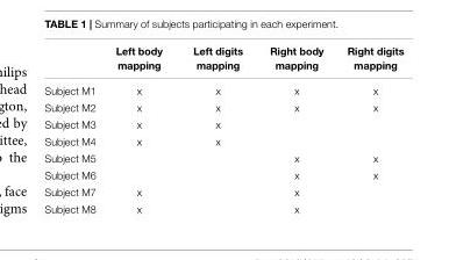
<table><thead><tr><td></td><td>Left body mapping</td><td>Left digits mapping</td><td>Right body mapping</td><td>Right digits mapping</td></tr></thead><tbody><tr><td>Subject M1</td><td>x</td><td>x</td><td>x</td><td>x</td></tr><tr><td>Subject M2</td><td>x</td><td>x</td><td>x</td><td>x</td></tr><tr><td>Subject M3</td><td>x</td><td>x</td><td></td><td></td></tr><tr><td>Subject M4</td><td>x</td><td>x</td><td></td><td></td></tr><tr><td>Subject M5</td><td></td><td></td><td>x</td><td>x</td></tr><tr><td>Subject M6</td><td></td><td></td><td>x</td><td>x</td></tr><tr><td>Subject M7</td><td>x</td><td></td><td>x</td><td></td></tr><tr><td>Subject M8</td><td>x</td><td></td><td>x</td><td></td></tr></tbody></table>